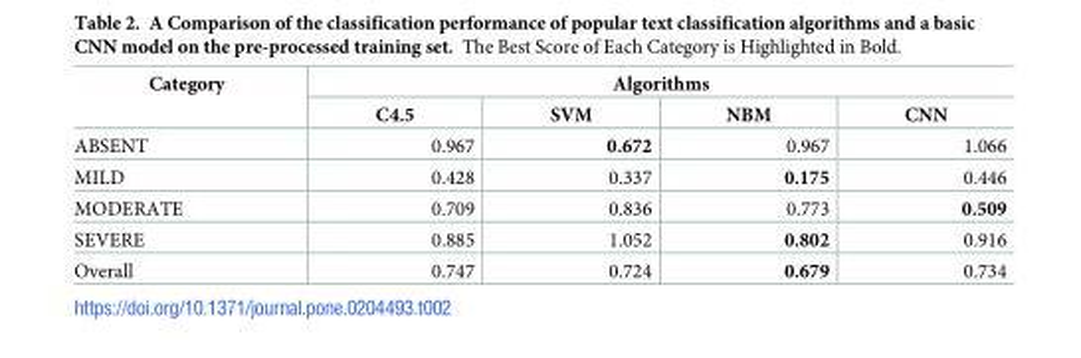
<table><thead><tr><td rowspan="2">Category</td><td colspan="4">Algorithms</td></tr><tr><td>C4.5</td><td>SVM</td><td>NBM</td><td>CNN</td></tr></thead><tbody><tr><td>ABSENT</td><td>0.967</td><td>0.672</td><td>0.967</td><td>1.066</td></tr><tr><td>MILD</td><td>0.428</td><td>0.337</td><td>0.175</td><td>0.446</td></tr><tr><td>MODERATE</td><td>0.709</td><td>0.836</td><td>0.773</td><td>0.509</td></tr><tr><td>SEVERE</td><td>0.885</td><td>1.052</td><td>0.802</td><td>0.916</td></tr><tr><td>Overall</td><td>0.747</td><td>0.724</td><td>0.679</td><td>0.734</td></tr></tbody></table>